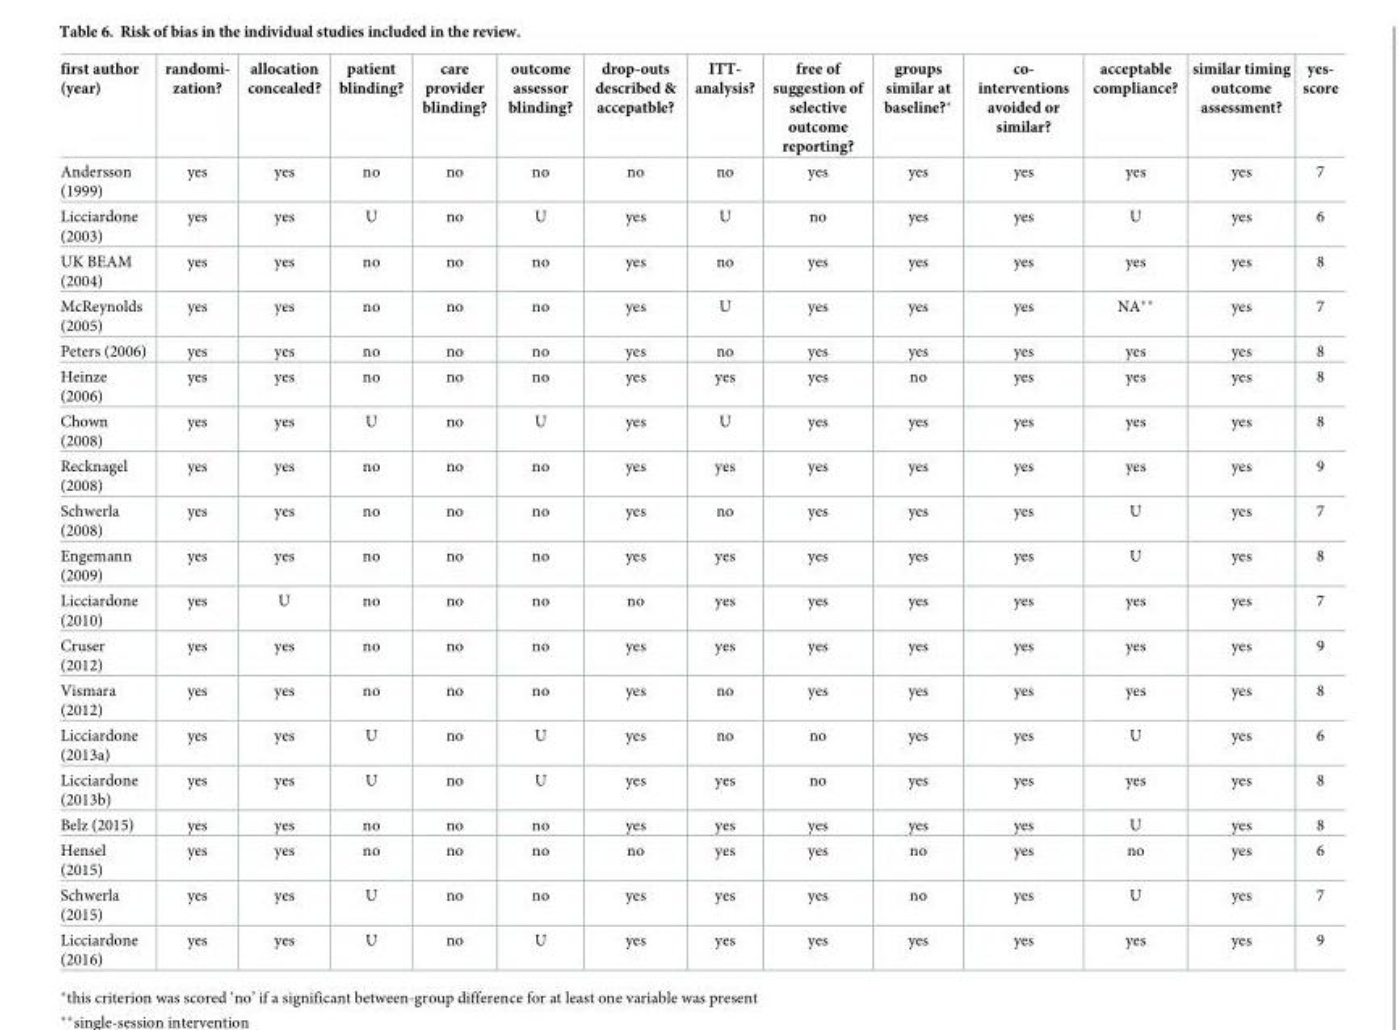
<table><thead><tr><td>first author (year)</td><td>randomi- zation?</td><td>allocation concealed?</td><td>patient blinding?</td><td>care provider blinding?</td><td>outcome assessor blinding?</td><td>drop-outs described &amp; accepatble?</td><td>ITT- analysis?</td><td>free of suggestion of selective outcome reporting?</td><td>groups similar at baseline?*</td><td>co- interventions avoided or similar?</td><td>acceptable compliance?</td><td>similar timing outcome assessment?</td><td>yes- score</td></tr></thead><tbody><tr><td>Andersson (1999)</td><td>yes</td><td>yes</td><td>no</td><td>no</td><td>no</td><td>no</td><td>no</td><td>yes</td><td>yes</td><td>yes</td><td>yes</td><td>yes</td><td>7</td></tr><tr><td>Licciardone (2003)</td><td>yes</td><td>yes</td><td>U</td><td>no</td><td>U</td><td>yes</td><td>U</td><td>no</td><td>yes</td><td>yes</td><td>U</td><td>yes</td><td>6</td></tr><tr><td>UK BEAM (2004)</td><td>yes</td><td>yes</td><td>no</td><td>no</td><td>no</td><td>yes</td><td>no</td><td>yes</td><td>yes</td><td>yes</td><td>yes</td><td>yes</td><td>8</td></tr><tr><td>McReynolds (2005)</td><td>yes</td><td>yes</td><td>no</td><td>no</td><td>no</td><td>yes</td><td>U</td><td>yes</td><td>yes</td><td>yes</td><td>NA**</td><td>yes</td><td>7</td></tr><tr><td>Peters (2006)</td><td>yes</td><td>yes</td><td>no</td><td>no</td><td>no</td><td>yes</td><td>no</td><td>yes</td><td>yes</td><td>yes</td><td>yes</td><td>yes</td><td>8</td></tr><tr><td>Heinze (2006)</td><td>yes</td><td>yes</td><td>no</td><td>no</td><td>no</td><td>yes</td><td>yes</td><td>yes</td><td>no</td><td>yes</td><td>yes</td><td>yes</td><td>8</td></tr><tr><td>Chown (2008)</td><td>yes</td><td>yes</td><td>U</td><td>no</td><td>U</td><td>yes</td><td>U</td><td>yes</td><td>yes</td><td>yes</td><td>yes</td><td>yes</td><td>8</td></tr><tr><td>Recknagel (2008)</td><td>yes</td><td>yes</td><td>no</td><td>no</td><td>no</td><td>yes</td><td>yes</td><td>yes</td><td>yes</td><td>yes</td><td>yes</td><td>yes</td><td>9</td></tr><tr><td>Schwerla (2008)</td><td>yes</td><td>yes</td><td>no</td><td>no</td><td>no</td><td>yes</td><td>no</td><td>yes</td><td>yes</td><td>yes</td><td>U</td><td>yes</td><td>7</td></tr><tr><td>Engemann (2009)</td><td>yes</td><td>yes</td><td>no</td><td>no</td><td>no</td><td>yes</td><td>yes</td><td>yes</td><td>yes</td><td>yes</td><td>U</td><td>yes</td><td>8</td></tr><tr><td>Licciardone (2010)</td><td>yes</td><td>U</td><td>no</td><td>no</td><td>no</td><td>no</td><td>yes</td><td>yes</td><td>yes</td><td>yes</td><td>yes</td><td>yes</td><td>7</td></tr><tr><td>Cruser (2012)</td><td>yes</td><td>yes</td><td>no</td><td>no</td><td>no</td><td>yes</td><td>yes</td><td>yes</td><td>yes</td><td>yes</td><td>yes</td><td>yes</td><td>9</td></tr><tr><td>Vismara (2012)</td><td>yes</td><td>yes</td><td>no</td><td>no</td><td>no</td><td>yes</td><td>no</td><td>yes</td><td>yes</td><td>yes</td><td>yes</td><td>yes</td><td>8</td></tr><tr><td>Licciardone (2013a)</td><td>yes</td><td>yes</td><td>U</td><td>no</td><td>U</td><td>yes</td><td>no</td><td>no</td><td>yes</td><td>yes</td><td>U</td><td>yes</td><td>6</td></tr><tr><td>Licciardone (2013b)</td><td>yes</td><td>yes</td><td>U</td><td>no</td><td>U</td><td>yes</td><td>yes</td><td>no</td><td>yes</td><td>yes</td><td>yes</td><td>yes</td><td>8</td></tr><tr><td>Belz (2015)</td><td>yes</td><td>yes</td><td>no</td><td>no</td><td>no</td><td>yes</td><td>yes</td><td>yes</td><td>yes</td><td>yes</td><td>U</td><td>yes</td><td>8</td></tr><tr><td>Hensel (2015)</td><td>yes</td><td>yes</td><td>no</td><td>no</td><td>no</td><td>no</td><td>yes</td><td>yes</td><td>no</td><td>yes</td><td>no</td><td>yes</td><td>6</td></tr><tr><td>Schwerla (2015)</td><td>yes</td><td>yes</td><td>U</td><td>no</td><td>no</td><td>yes</td><td>yes</td><td>yes</td><td>no</td><td>yes</td><td>U</td><td>yes</td><td>7</td></tr><tr><td>Licciardone (2016)</td><td>yes</td><td>yes</td><td>U</td><td>no</td><td>U</td><td>yes</td><td>yes</td><td>yes</td><td>yes</td><td>yes</td><td>yes</td><td>yes</td><td>9</td></tr></tbody></table>